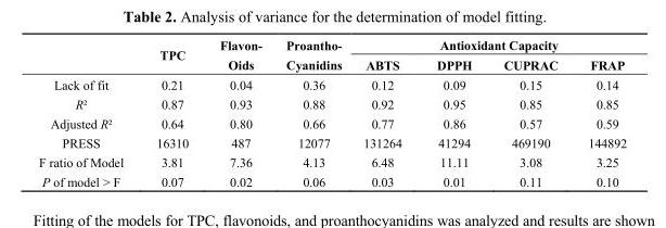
<table><thead><tr><td rowspan="2"></td><td rowspan="2">TPC</td><td rowspan="2">Flavon- Oids</td><td rowspan="2">Proantho- Cyanidins</td><td colspan="4">Antioxidant Capacity</td></tr><tr><td>ABTS</td><td>DPPH</td><td>CUPRAC</td><td>FRAP</td></tr></thead><tbody><tr><td>Lack of fit</td><td>0.21</td><td>0.04</td><td>0.36</td><td>0.12</td><td>0.09</td><td>0.15</td><td>0.14</td></tr><tr><td>R²</td><td>0.87</td><td>0.93</td><td>0.88</td><td>0.92</td><td>0.95</td><td>0.85</td><td>0.85</td></tr><tr><td>Adjusted R²</td><td>0.64</td><td>0.80</td><td>0.66</td><td>0.77</td><td>0.86</td><td>0.57</td><td>0.59</td></tr><tr><td>PRESS</td><td>16310</td><td>487</td><td>12077</td><td>131264</td><td>41294</td><td>469190</td><td>144892</td></tr><tr><td>F ratio of Model</td><td>3.81</td><td>7.36</td><td>4.13</td><td>6.48</td><td>11.11</td><td>3.08</td><td>3.25</td></tr><tr><td>P of model &gt; F</td><td>0.07</td><td>0.02</td><td>0.06</td><td>0.03</td><td>0.01</td><td>0.11</td><td>0.10</td></tr></tbody></table>